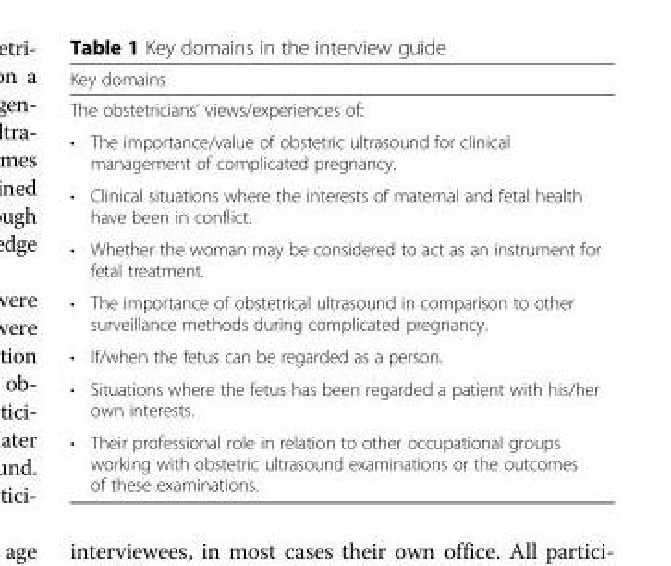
<table><thead><tr><td rowspan="2" colspan="2">Key domains The obstetricians’ views/experiences of:</td></tr><tr></tr><tr><td>•</td><td>The importance/value of obstetric ultrasound for clinical management of complicated pregnancy.</td></tr></thead><tbody><tr><td>•</td><td>Clinical situations where the interests of maternal and fetal health have been in conflict.</td></tr><tr><td>•</td><td>Whether the woman may be considered to act as an instrument for fetal treatment.</td></tr><tr><td>•</td><td>The importance of obstetrical ultrasound in comparison to other surveillance methods during complicated pregnancy.</td></tr><tr><td>•</td><td>If/when the fetus can be regarded as a person.</td></tr><tr><td>•</td><td>Situations where the fetus has been regarded a patient with his/her own interests.</td></tr><tr><td>•</td><td>Their professional role in relation to other occupational groups working with obstetric ultrasound examinations or the outcomes of these examinations.</td></tr></tbody></table>